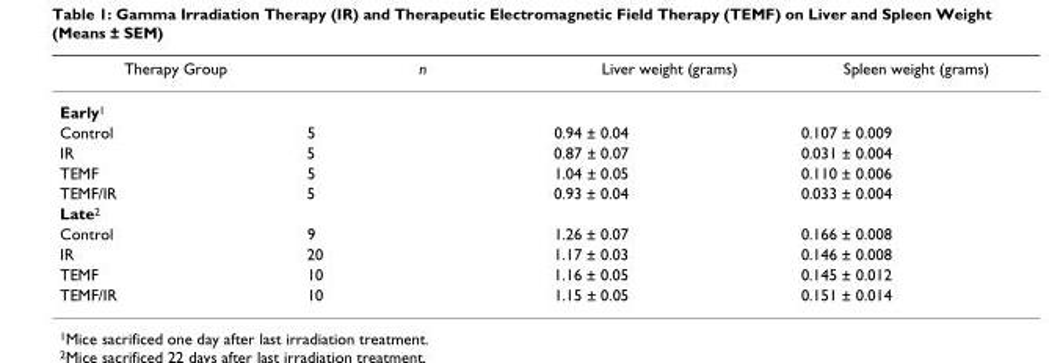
<table><thead><tr><td>Therapy Group</td><td>n</td><td>Liver weight (grams)</td><td>Spleen weight (grams)</td></tr></thead><tbody><tr><td colspan="4">Early<sup>1</sup></td></tr><tr><td>Control</td><td>5</td><td>0.94 ± 0.04</td><td>0.107 ± 0.009</td></tr><tr><td>IR</td><td>5</td><td>0.87 ± 0.07</td><td>0.031 ± 0.004</td></tr><tr><td>TEMF</td><td>5</td><td>1.04 ± 0.05</td><td>0.110 ± 0.006</td></tr><tr><td>TEMF/IR</td><td>5</td><td>0.93 ± 0.04</td><td>0.033 ± 0.004</td></tr><tr><td colspan="4">Late<sup>2</sup></td></tr><tr><td>Control</td><td>9</td><td>1.26 ± 0.07</td><td>0.166 ± 0.008</td></tr><tr><td>IR</td><td>20</td><td>1.17 ± 0.03</td><td>0.146 ± 0.008</td></tr><tr><td>TEMF</td><td>10</td><td>1.16 ± 0.05</td><td>0.145 ± 0.012</td></tr><tr><td>TEMF/IR</td><td>10</td><td>1.15 ± 0.05</td><td>0.151 ± 0.014</td></tr></tbody></table>